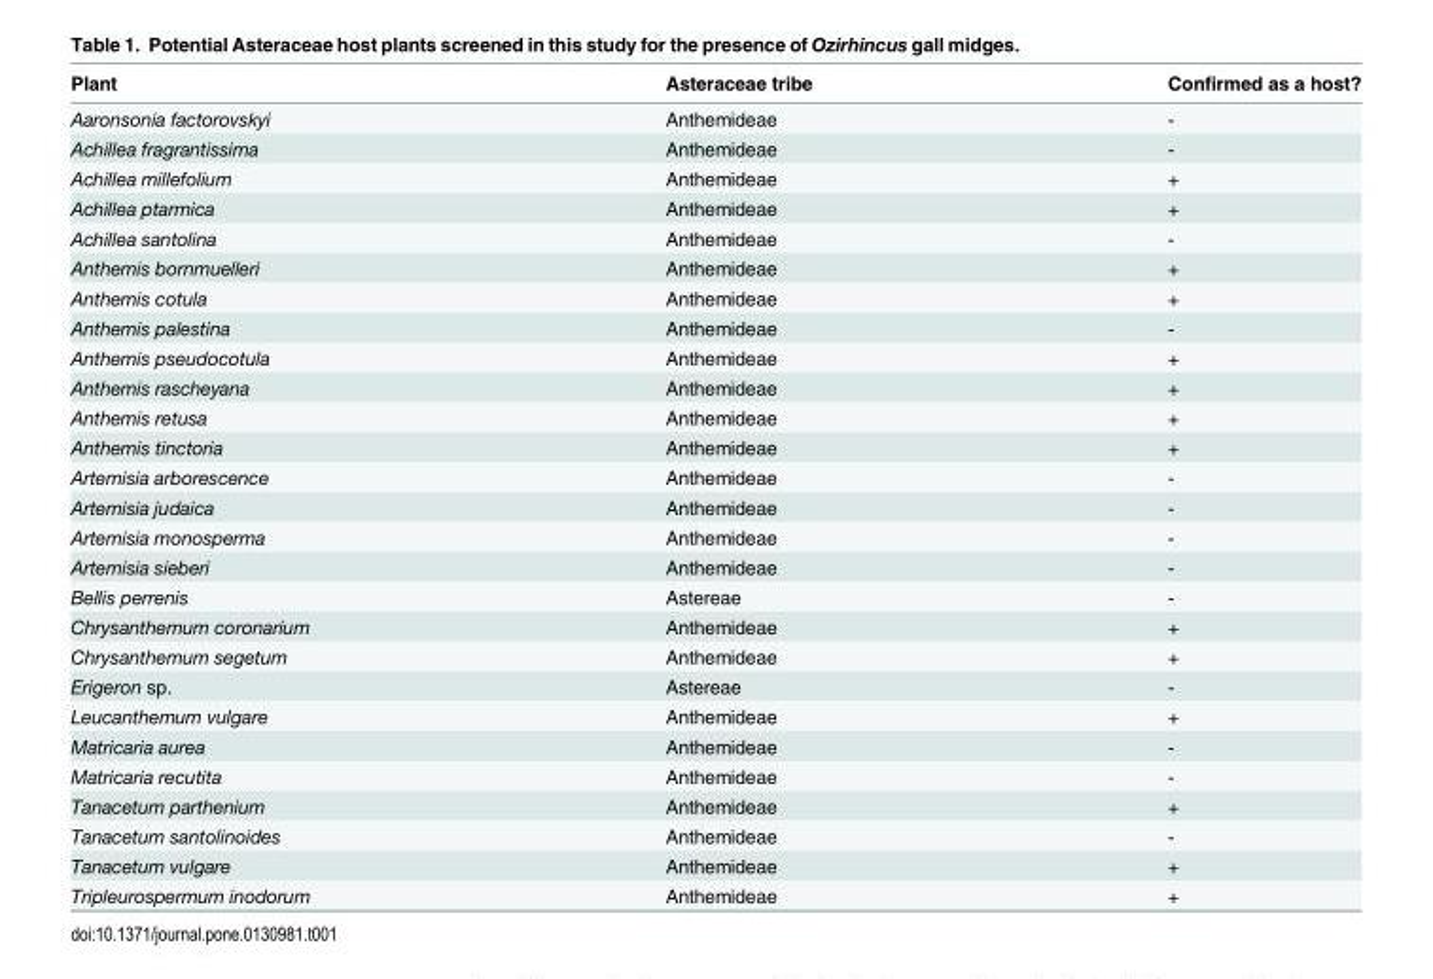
<table><thead><tr><td>Plant</td><td>Asteraceae tribe</td><td>Confirmed as a host?</td></tr></thead><tbody><tr><td>Aaronsonia factorovskyi</td><td>Anthemideae</td><td>-</td></tr><tr><td>Achillea fragrantissima</td><td>Anthemideae</td><td>-</td></tr><tr><td>Achillea millefolium</td><td>Anthemideae</td><td>+</td></tr><tr><td>Achillea ptarmica</td><td>Anthemideae</td><td>+</td></tr><tr><td>Achillea santolina</td><td>Anthemideae</td><td>-</td></tr><tr><td>Anthemis bornmuelleri</td><td>Anthemideae</td><td>+</td></tr><tr><td>Anthemis cotula</td><td>Anthemideae</td><td>+</td></tr><tr><td>Anthemis palestina</td><td>Anthemideae</td><td>-</td></tr><tr><td>Anthemis pseudocotula</td><td>Anthemideae</td><td>+</td></tr><tr><td>Anthemis rascheyana</td><td>Anthemideae</td><td>+</td></tr><tr><td>Anthemis retusa</td><td>Anthemideae</td><td>+</td></tr><tr><td>Anthemis tinctoria</td><td>Anthemideae</td><td>+</td></tr><tr><td>Artemisia arborescence</td><td>Anthemideae</td><td>-</td></tr><tr><td>Artemisia judaica</td><td>Anthemideae</td><td>-</td></tr><tr><td>Artemisia monosperma</td><td>Anthemideae</td><td>-</td></tr><tr><td>Artemisia sieberi</td><td>Anthemideae</td><td>-</td></tr><tr><td>Bellis perrenis</td><td>Astereae</td><td>-</td></tr><tr><td>Chrysanthemum coronarium</td><td>Anthemideae</td><td>+</td></tr><tr><td>Chrysanthemum segetum</td><td>Anthemideae</td><td>+</td></tr><tr><td>Erigeron sp.</td><td>Astereae</td><td>-</td></tr><tr><td>Leucanthemum vulgare</td><td>Anthemideae</td><td>+</td></tr><tr><td>Matricaria aurea</td><td>Anthemideae</td><td>-</td></tr><tr><td>Matricaria recutita</td><td>Anthemideae</td><td>-</td></tr><tr><td>Tanacetum parthenium</td><td>Anthemideae</td><td>+</td></tr><tr><td>Tanacetum santolinoides</td><td>Anthemideae</td><td>-</td></tr><tr><td>Tanacetum vulgare</td><td>Anthemideae</td><td>+</td></tr><tr><td>Tripleurospermum inodorum</td><td>Anthemideae</td><td>+</td></tr></tbody></table>